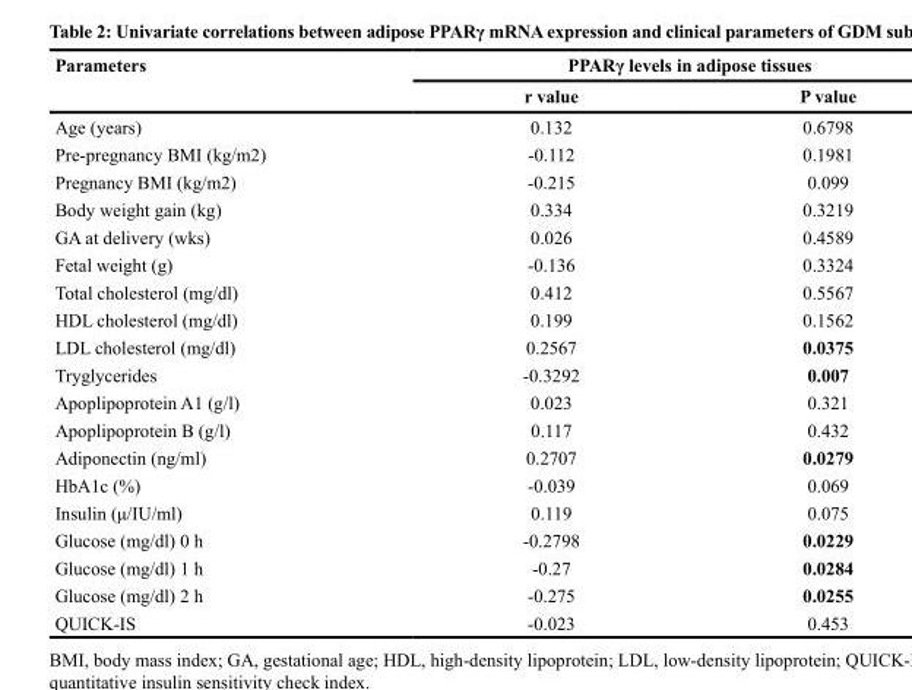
<table><thead><tr><td rowspan="2">Parameters</td><td colspan="2">PPARγ levels in adipose tissues</td></tr><tr><td>r value</td><td>P value</td></tr></thead><tbody><tr><td>Age (years)</td><td>0.132</td><td>0.6798</td></tr><tr><td>Pre-pregnancy BMI (kg/m2)</td><td>-0.112</td><td>0.1981</td></tr><tr><td>Pregnancy BMI (kg/m2)</td><td>-0.215</td><td>0.099</td></tr><tr><td>Body weight gain (kg)</td><td>0.334</td><td>0.3219</td></tr><tr><td>GA at delivery (wks)</td><td>0.026</td><td>0.4589</td></tr><tr><td>Fetal weight (g)</td><td>-0.136</td><td>0.3324</td></tr><tr><td>Total cholesterol (mg/dl)</td><td>0.412</td><td>0.5567</td></tr><tr><td>HDL cholesterol (mg/dl)</td><td>0.199</td><td>0.1562</td></tr><tr><td>LDL cholesterol (mg/dl)</td><td>0.2567</td><td>0.0375</td></tr><tr><td>Tryglycerides</td><td>-0.3292</td><td>0.007</td></tr><tr><td>Apoplipoprotein A1 (g/l)</td><td>0.023</td><td>0.321</td></tr><tr><td>Apoplipoprotein B (g/l)</td><td>0.117</td><td>0.432</td></tr><tr><td>Adiponectin (ng/ml)</td><td>0.2707</td><td>0.0279</td></tr><tr><td>HbA1c (%)</td><td>-0.039</td><td>0.069</td></tr><tr><td>Insulin (μ/IU/ml)</td><td>0.119</td><td>0.075</td></tr><tr><td>Glucose (mg/dl) 0 h</td><td>-0.2798</td><td>0.0229</td></tr><tr><td>Glucose (mg/dl) 1 h</td><td>-0.27</td><td>0.0284</td></tr><tr><td>Glucose (mg/dl) 2 h</td><td>-0.275</td><td>0.0255</td></tr><tr><td>QUICK-IS</td><td>-0.023</td><td>0.453</td></tr></tbody></table>